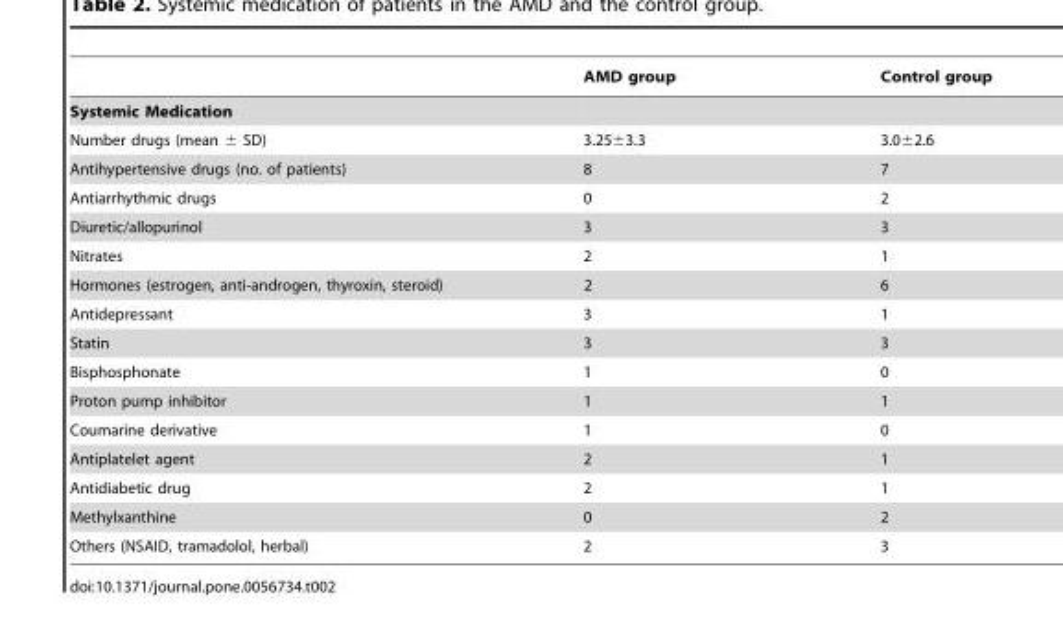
<table><thead><tr><td></td><td>AMD group</td><td>Control group</td></tr></thead><tbody><tr><td colspan="3">Systemic Medication</td></tr><tr><td>Number drugs (mean ± SD)</td><td>3.25±3.3</td><td>3.0±2.6</td></tr><tr><td>Antihypertensive drugs (no. of patients)</td><td>8</td><td>7</td></tr><tr><td>Antiarrhythmic drugs</td><td>0</td><td>2</td></tr><tr><td>Diuretic/allopurinol</td><td>3</td><td>3</td></tr><tr><td>Nitrates</td><td>2</td><td>1</td></tr><tr><td>Hormones (estrogen, anti-androgen, thyroxin, steroid)</td><td>2</td><td>6</td></tr><tr><td>Antidepressant</td><td>3</td><td>1</td></tr><tr><td>Statin</td><td>3</td><td>3</td></tr><tr><td>Bisphosphonate</td><td>1</td><td>0</td></tr><tr><td>Proton pump inhibitor</td><td>1</td><td>1</td></tr><tr><td>Coumarine derivative</td><td>1</td><td>0</td></tr><tr><td>Antiplatelet agent</td><td>2</td><td>1</td></tr><tr><td>Antidiabetic drug</td><td>2</td><td>1</td></tr><tr><td>Methylxanthine</td><td>0</td><td>2</td></tr><tr><td>Others (NSAID, tramadolol, herbal)</td><td>2</td><td>3</td></tr></tbody></table>